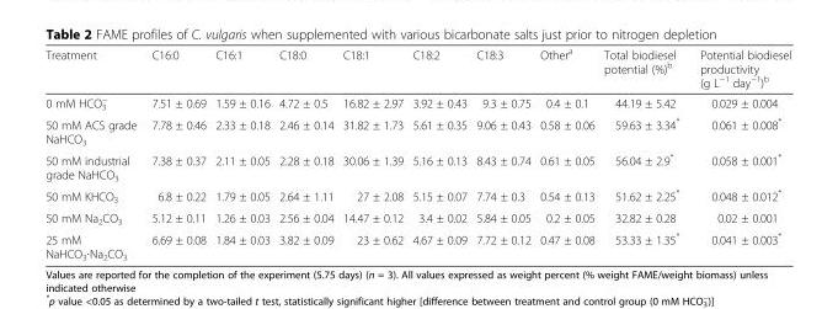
<table><thead><tr><td>Treatment</td><td>C16:0</td><td>C16:1</td><td>C18:0</td><td>C18:1</td><td>C18:2</td><td>C18:3</td><td>Other<sup>a</sup></td><td>Total biodiesel potential (%)<sup>b</sup></td><td>Potential biodiesel productivity (g L<sup>−1</sup> day<sup>−1</sup>)<sup>b</sup></td></tr></thead><tbody><tr><td>0 mM HCO<sub>3</sub> <sup>−</sup></td><td>7.51 ± 0.69</td><td>1.59 ± 0.16</td><td>4.72 ± 0.5</td><td>16.82 ± 2.97</td><td>3.92 ± 0.43</td><td>9.3 ± 0.75</td><td>0.4 ± 0.1</td><td>44.19 ± 5.42</td><td>0.029 ± 0.004</td></tr><tr><td>50 mM ACS grade NaHCO<sub>3</sub></td><td>7.78 ± 0.46</td><td>2.33 ± 0.18</td><td>2.46 ± 0.14</td><td>31.82 ± 1.73</td><td>5.61 ± 0.35</td><td>9.06 ± 0.43</td><td>0.58 ± 0.06</td><td>59.63 ± 3.34*</td><td>0.061 ± 0.008*</td></tr><tr><td>50 mM industrial grade NaHCO<sub>3</sub></td><td>7.38 ± 0.37</td><td>2.11 ± 0.05</td><td>2.28 ± 0.18</td><td>30.06 ± 1.39</td><td>5.16 ± 0.13</td><td>8.43 ± 0.74</td><td>0.61 ± 0.05</td><td>56.04 ± 2.9*</td><td>0.058 ± 0.001*</td></tr><tr><td>50 mM KHCO<sub>3</sub></td><td>6.8 ± 0.22</td><td>1.79 ± 0.05</td><td>2.64 ± 1.11</td><td>27 ± 2.08</td><td>5.15 ± 0.07</td><td>7.74 ± 0.3</td><td>0.54 ± 0.13</td><td>51.62 ± 2.25*</td><td>0.048 ± 0.012*</td></tr><tr><td>50 mM Na<sub>2</sub>CO<sub>3</sub></td><td>5.12 ± 0.11</td><td>1.26 ± 0.03</td><td>2.56 ± 0.04</td><td>14.47 ± 0.12</td><td>3.4 ± 0.02</td><td>5.84 ± 0.05</td><td>0.2 ± 0.05</td><td>32.82 ± 0.28</td><td>0.02 ± 0.001</td></tr><tr><td>25 mM NaHCO<sub>3</sub>∙Na<sub>2</sub>CO<sub>3</sub></td><td>6.69 ± 0.08</td><td>1.84 ± 0.03</td><td>3.82 ± 0.09</td><td>23 ± 0.62</td><td>4.67 ± 0.09</td><td>7.72 ± 0.12</td><td>0.47 ± 0.08</td><td>53.33 ± 1.35*</td><td>0.041 ± 0.003*</td></tr></tbody></table>